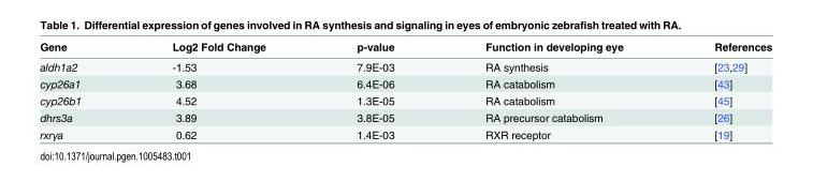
<table><thead><tr><td>Gene</td><td>Log2 Fold Change</td><td>p-value</td><td>Function in developing eye</td><td>References</td></tr></thead><tbody><tr><td>aldh1a2</td><td>-1.53</td><td>7.9E-03</td><td>RA synthesis</td><td>[23,29]</td></tr><tr><td>cyp26a1</td><td>3.68</td><td>6.4E-06</td><td>RA catabolism</td><td>[43]</td></tr><tr><td>cyp26b1</td><td>4.52</td><td>1.3E-05</td><td>RA catabolism</td><td>[45]</td></tr><tr><td>dhrs3a</td><td>3.89</td><td>3.8E-05</td><td>RA precursor catabolism</td><td>[26]</td></tr><tr><td>rxrγa</td><td>0.62</td><td>1.4E-03</td><td>RXR receptor</td><td>[19]</td></tr></tbody></table>